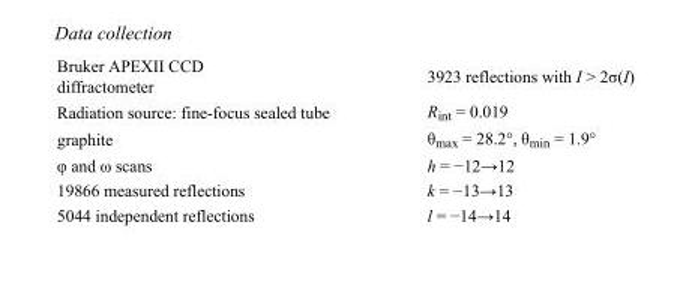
<table><tbody><tr><td>Bruker APEXII CCD diffractometer</td><td>3923 reflections with I &gt; 2σ(I)</td></tr><tr><td>Radiation source: fine-focus sealed tube</td><td>R<sub>int</sub> = 0.019</td></tr><tr><td>graphite</td><td>θ<sub>max</sub> = 28.2°, θ<sub>min</sub> = 1.9°</td></tr><tr><td>φ and ω scans</td><td>h = −12→12</td></tr><tr><td>19866 measured reflections</td><td>k = −13→13</td></tr><tr><td>5044 independent reflections</td><td>l = −14→14</td></tr></tbody></table>